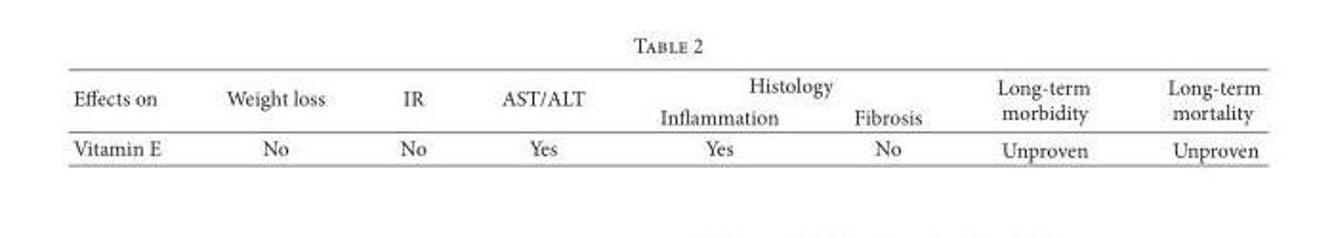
<table><thead><tr><td rowspan="2">Effects on</td><td rowspan="2">Weight loss</td><td rowspan="2">IR</td><td rowspan="2">AST/ALT</td><td colspan="2">Histology</td><td rowspan="2">Long-term morbidity</td><td rowspan="2">Long-term mortality</td></tr><tr><td>Inflammation</td><td>Fibrosis</td></tr></thead><tbody><tr><td>Vitamin E</td><td>No</td><td>No</td><td>Yes</td><td>Yes</td><td>No</td><td>Unproven</td><td>Unproven</td></tr></tbody></table>